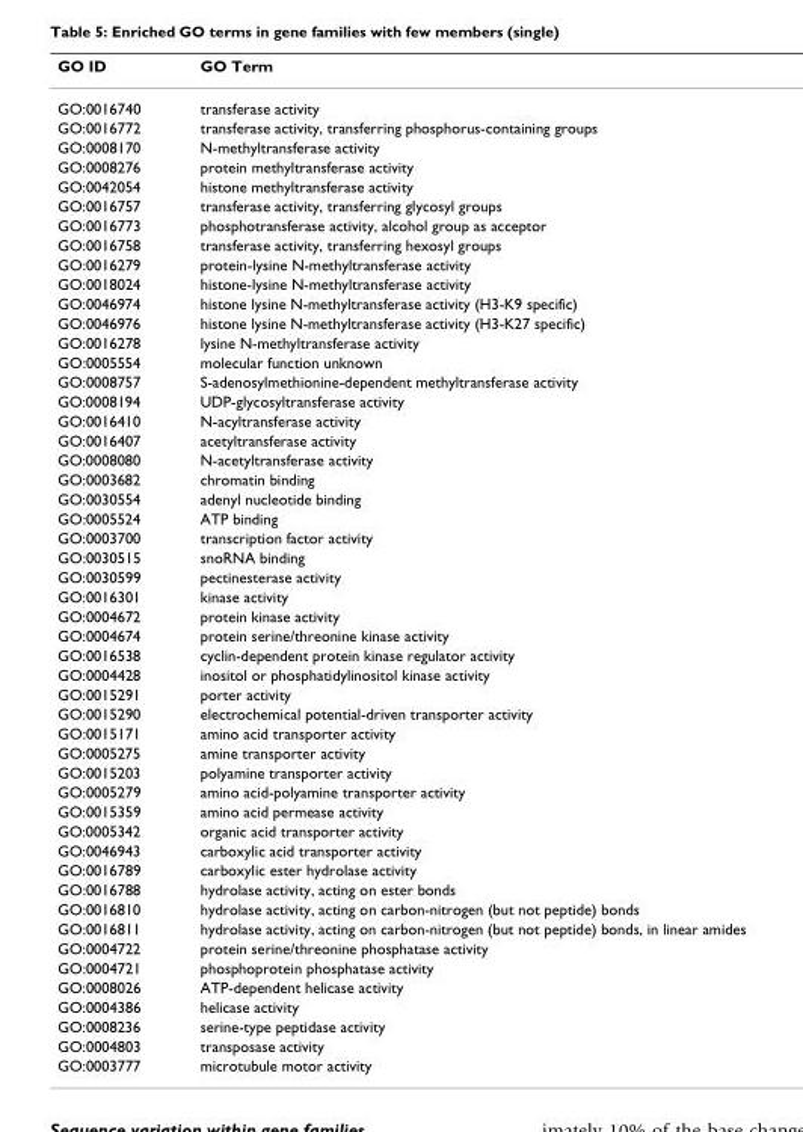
<table><thead><tr><td>GO ID</td><td>GO Term</td></tr></thead><tbody><tr><td>GO:0016740</td><td>transferase activity</td></tr><tr><td>GO:0016772</td><td>transferase activity, transferring phosphorus-containing groups</td></tr><tr><td>GO:0008170</td><td>N-methyltransferase activity</td></tr><tr><td>GO:0008276</td><td>protein methyltransferase activity</td></tr><tr><td>GO:0042054</td><td>histone methyltransferase activity</td></tr><tr><td>GO:0016757</td><td>transferase activity, transferring glycosyl groups</td></tr><tr><td>GO:0016773</td><td>phosphotransferase activity, alcohol group as acceptor</td></tr><tr><td>GO:0016758</td><td>transferase activity, transferring hexosyl groups</td></tr><tr><td>GO:0016279</td><td>protein-lysine N-methyltransferase activity</td></tr><tr><td>GO:0018024</td><td>histone-lysine N-methyltransferase activity</td></tr><tr><td>GO:0046974</td><td>histone lysine N-methyltransferase activity (H3-K9 specific)</td></tr><tr><td>GO:0046976</td><td>histone lysine N-methyltransferase activity (H3-K27 specific)</td></tr><tr><td>GO:0016278</td><td>lysine N-methyltransferase activity</td></tr><tr><td>GO:0005554</td><td>molecular function unknown</td></tr><tr><td>GO:0008757</td><td>S-adenosylmethionine-dependent methyltransferase activity</td></tr><tr><td>GO:0008194</td><td>UDP-glycosyltransferase activity</td></tr><tr><td>GO:0016410</td><td>N-acyltransferase activity</td></tr><tr><td>GO:0016407</td><td>acetyltransferase activity</td></tr><tr><td>GO:0008080</td><td>N-acetyltransferase activity</td></tr><tr><td>GO:0003682</td><td>chromatin binding</td></tr><tr><td>GO:0030554</td><td>adenyl nucleotide binding</td></tr><tr><td>GO:0005524</td><td>ATP binding</td></tr><tr><td>GO:0003700</td><td>transcription factor activity</td></tr><tr><td>GO:0030515</td><td>snoRNA binding</td></tr><tr><td>GO:0030599</td><td>pectinesterase activity</td></tr><tr><td>GO:0016301</td><td>kinase activity</td></tr><tr><td>GO:0004672</td><td>protein kinase activity</td></tr><tr><td>GO:0004674</td><td>protein serine/threonine kinase activity</td></tr><tr><td>GO:0016538</td><td>cyclin-dependent protein kinase regulator activity</td></tr><tr><td>GO:0004428</td><td>inositol or phosphatidylinositol kinase activity</td></tr><tr><td>GO:0015291</td><td>porter activity</td></tr><tr><td>GO:0015290</td><td>electrochemical potential-driven transporter activity</td></tr><tr><td>GO:0015171</td><td>amino acid transporter activity</td></tr><tr><td>GO:0005275</td><td>amine transporter activity</td></tr><tr><td>GO:0015203</td><td>polyamine transporter activity</td></tr><tr><td>GO:0005279</td><td>amino acid-polyamine transporter activity</td></tr><tr><td>GO:0015359</td><td>amino acid permease activity</td></tr><tr><td>GO:0005342</td><td>organic acid transporter activity</td></tr><tr><td>GO:0046943</td><td>carboxylic acid transporter activity</td></tr><tr><td>GO:0016789</td><td>carboxylic ester hydrolase activity</td></tr><tr><td>GO:0016788</td><td>hydrolase activity, acting on ester bonds</td></tr><tr><td>GO:0016810</td><td>hydrolase activity, acting on carbon-nitrogen (but not peptide) bonds</td></tr><tr><td>GO:0016811</td><td>hydrolase activity, acting on carbon-nitrogen (but not peptide) bonds, in linear amides</td></tr><tr><td>GO:0004722</td><td>protein serine/threonine phosphatase activity</td></tr><tr><td>GO:0004721</td><td>phosphoprotein phosphatase activity</td></tr><tr><td>GO:0008026</td><td>ATP-dependent helicase activity</td></tr><tr><td>GO:0004386</td><td>helicase activity</td></tr><tr><td>GO:0008236</td><td>serine-type peptidase activity</td></tr><tr><td>GO:0004803</td><td>transposase activity</td></tr><tr><td>GO:0003777</td><td>microtubule motor activity</td></tr></tbody></table>